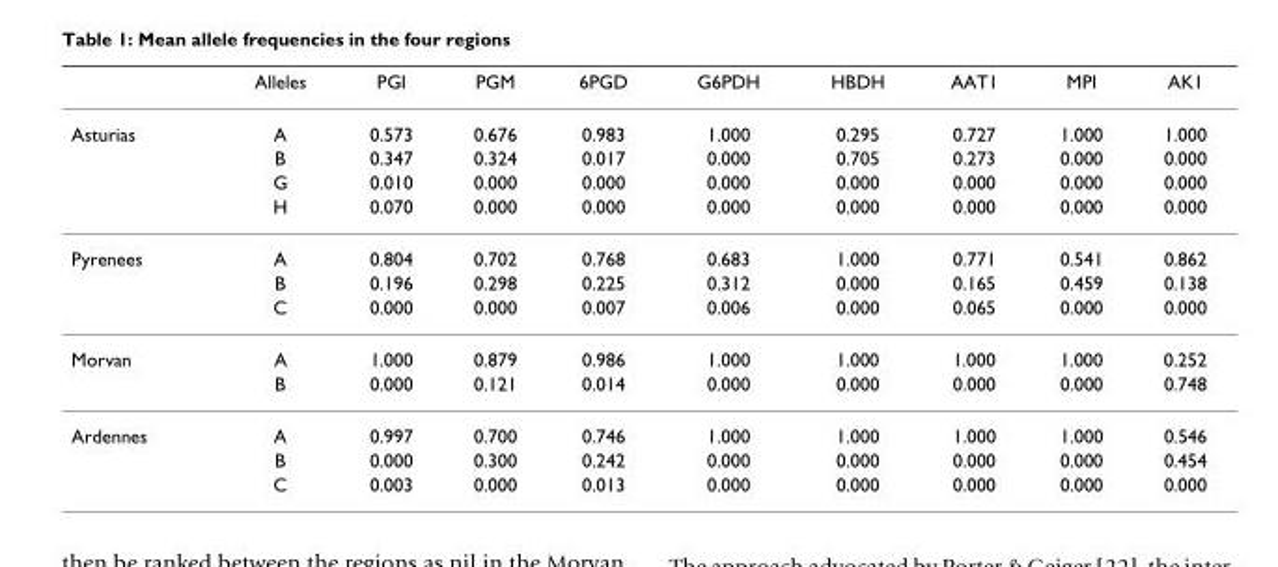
<table><thead><tr><td></td><td>Alleles</td><td>PGI</td><td>PGM</td><td>6PGD</td><td>G6PDH</td><td>HBDH</td><td>AAT1</td><td>MPI</td><td>AK1</td></tr></thead><tbody><tr><td rowspan="4">Asturias</td><td>A</td><td>0.573</td><td>0.676</td><td>0.983</td><td>1.000</td><td>0.295</td><td>0.727</td><td>1.000</td><td>1.000</td></tr><tr><td>B</td><td>0.347</td><td>0.324</td><td>0.017</td><td>0.000</td><td>0.705</td><td>0.273</td><td>0.000</td><td>0.000</td></tr><tr><td>G</td><td>0.010</td><td>0.000</td><td>0.000</td><td>0.000</td><td>0.000</td><td>0.000</td><td>0.000</td><td>0.000</td></tr><tr><td>H</td><td>0.070</td><td>0.000</td><td>0.000</td><td>0.000</td><td>0.000</td><td>0.000</td><td>0.000</td><td>0.000</td></tr><tr><td rowspan="3">Pyrenees</td><td>A</td><td>0.804</td><td>0.702</td><td>0.768</td><td>0.683</td><td>1.000</td><td>0.771</td><td>0.541</td><td>0.862</td></tr><tr><td>B</td><td>0.196</td><td>0.298</td><td>0.225</td><td>0.312</td><td>0.000</td><td>0.165</td><td>0.459</td><td>0.138</td></tr><tr><td>C</td><td>0.000</td><td>0.000</td><td>0.007</td><td>0.006</td><td>0.000</td><td>0.065</td><td>0.000</td><td>0.000</td></tr><tr><td rowspan="2">Morvan</td><td>A</td><td>1.000</td><td>0.879</td><td>0.986</td><td>1.000</td><td>1.000</td><td>1.000</td><td>1.000</td><td>0.252</td></tr><tr><td>B</td><td>0.000</td><td>0.121</td><td>0.014</td><td>0.000</td><td>0.000</td><td>0.000</td><td>0.000</td><td>0.748</td></tr><tr><td rowspan="3">Ardennes</td><td>A</td><td>0.997</td><td>0.700</td><td>0.746</td><td>1.000</td><td>1.000</td><td>1.000</td><td>1.000</td><td>0.546</td></tr><tr><td>B</td><td>0.000</td><td>0.300</td><td>0.242</td><td>0.000</td><td>0.000</td><td>0.000</td><td>0.000</td><td>0.454</td></tr><tr><td>C</td><td>0.003</td><td>0.000</td><td>0.013</td><td>0.000</td><td>0.000</td><td>0.000</td><td>0.000</td><td>0.000</td></tr></tbody></table>